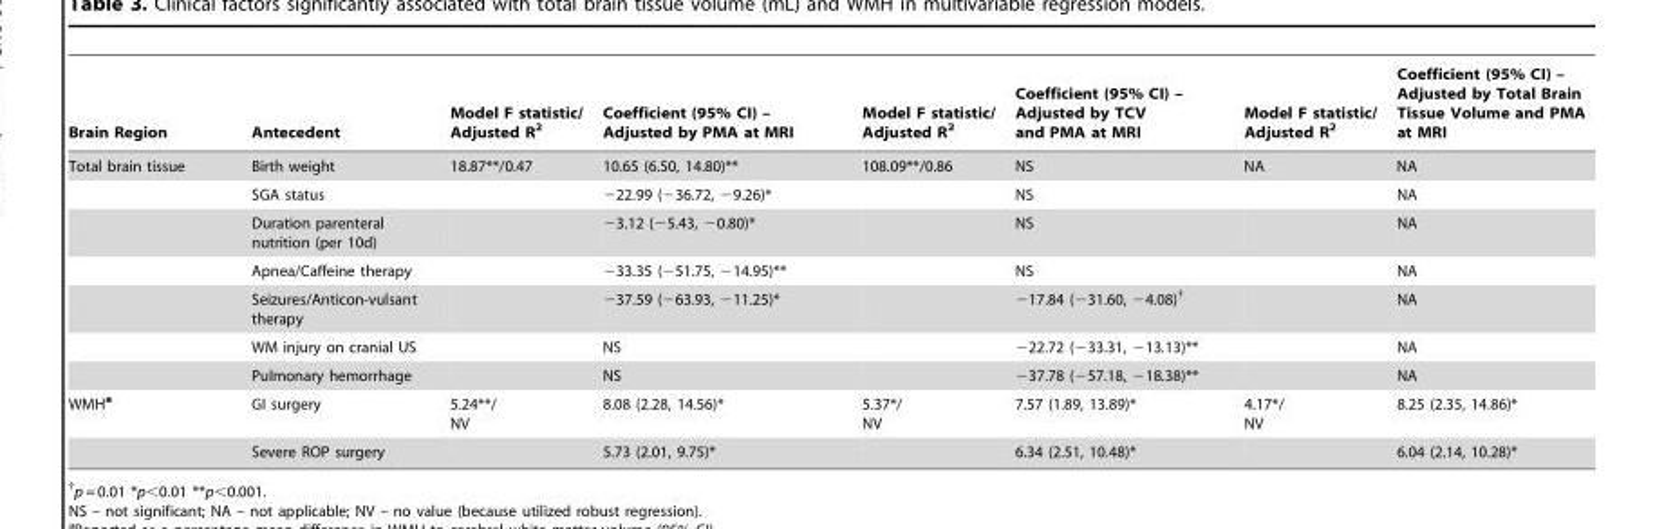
<table><thead><tr><td>Brain Region</td><td>Antecedent</td><td>Model F statistic/ Adjusted R<sup>2</sup></td><td>Coefficient (95% CI) – Adjusted by PMA at MRI</td><td>Model F statistic/ Adjusted R<sup>2</sup></td><td>Coefficient (95% CI) – Adjusted by TCV and PMA at MRI</td><td>Model F statistic/ Adjusted R<sup>2</sup></td><td>Coefficient (95% CI) – Adjusted by Total Brain Tissue Volume and PMA at MRI</td></tr></thead><tbody><tr><td rowspan="7">Total brain tissue</td><td>Birth weight</td><td>18.87**/0.47</td><td>10.65 (6.50, 14.80)**</td><td>108.09**/0.86</td><td>NS</td><td>NA</td><td>NA</td></tr><tr><td>SGA status</td><td></td><td>−22.99 (−36.72, −9.26)*</td><td></td><td>NS</td><td></td><td>NA</td></tr><tr><td>Duration parenteral nutrition (per 10d)</td><td></td><td>−3.12 (−5.43, −0.80)*</td><td></td><td>NS</td><td></td><td>NA</td></tr><tr><td>Apnea/Caffeine therapy</td><td></td><td>−33.35 (−51.75, −14.95)**</td><td></td><td>NS</td><td></td><td>NA</td></tr><tr><td>Seizures/Anticon-vulsant therapy</td><td></td><td>−37.59 (−63.93, −11.25)*</td><td></td><td>−17.84 (−31.60, −4.08)†</td><td></td><td>NA</td></tr><tr><td>WM injury on cranial US</td><td></td><td>NS</td><td></td><td>−22.72 (−33.31, −13.13)**</td><td></td><td>NA</td></tr><tr><td>Pulmonary hemorrhage</td><td></td><td>NS</td><td></td><td>−37.78 (−57.18, −18.38)**</td><td></td><td>NA</td></tr><tr><td rowspan="2">WMH<sup>a</sup></td><td>GI surgery</td><td>5.24**/ NV</td><td>8.08 (2.28, 14.56)*</td><td>5.37*/ NV</td><td>7.57 (1.89, 13.89)*</td><td>4.17*/ NV</td><td>8.25 (2.35, 14.86)*</td></tr><tr><td>Severe ROP surgery</td><td></td><td>5.73 (2.01, 9.75)*</td><td></td><td>6.34 (2.51, 10.48)*</td><td></td><td>6.04 (2.14, 10.28)*</td></tr></tbody></table>